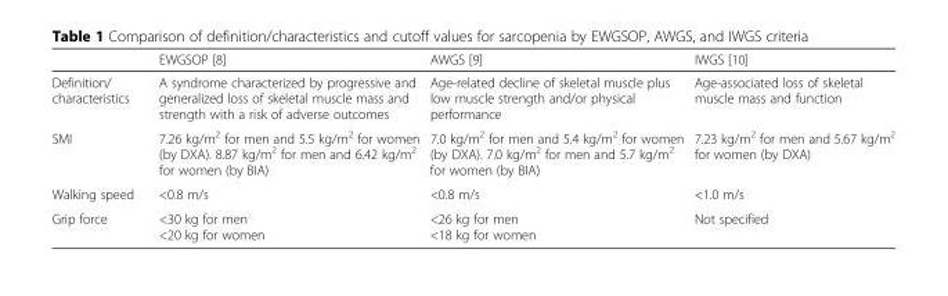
<table><thead><tr><td></td><td>EWGSOP [8]</td><td>AWGS [9]</td><td>IWGS [10]</td></tr></thead><tbody><tr><td>Definition/ characteristics</td><td>A syndrome characterized by progressive and generalized loss of skeletal muscle mass and strength with a risk of adverse outcomes</td><td>Age-related decline of skeletal muscle plus low muscle strength and/or physical performance</td><td>Age-associated loss of skeletal muscle mass and function</td></tr><tr><td>SMI</td><td>7.26 kg/m<sup>2</sup> for men and 5.5 kg/m<sup>2</sup> for women (by DXA). 8.87 kg/m<sup>2</sup> for men and 6.42 kg/m<sup>2</sup> for women (by BIA)</td><td>7.0 kg/m<sup>2</sup> for men and 5.4 kg/m<sup>2</sup> for women (by DXA). 7.0 kg/m<sup>2</sup> for men and 5.7 kg/m<sup>2</sup> for women (by BIA)</td><td>7.23 kg/m<sup>2</sup> for men and 5.67 kg/m<sup>2</sup> for women (by DXA)</td></tr><tr><td>Walking speed</td><td>&lt;0.8 m/s</td><td>&lt;0.8 m/s</td><td>&lt;1.0 m/s</td></tr><tr><td>Grip force</td><td>&lt;30 kg for men &lt;20 kg for women</td><td>&lt;26 kg for men &lt;18 kg for women</td><td>Not specified</td></tr></tbody></table>